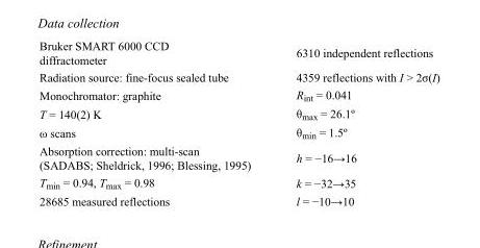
<table><tbody><tr><td>Bruker SMART 6000 CCD diffractometer</td><td>6310 independent reflections</td></tr><tr><td>Radiation source: fine-focus sealed tube</td><td>4359 reflections with I &gt; 2σ(I)</td></tr><tr><td>Monochromator: graphite</td><td>R<sub>int</sub> = 0.041</td></tr><tr><td>T = 140(2) K</td><td>θ<sub>max</sub> = 26.1º</td></tr><tr><td>ω scans</td><td>θ<sub>min</sub> = 1.5º</td></tr><tr><td>Absorption correction: multi-scan (SADABS; Sheldrick, 1996; Blessing, 1995)</td><td>h = −16→16</td></tr><tr><td>T<sub>min</sub> = 0.94, T<sub>max</sub> = 0.98</td><td>k = −32→35</td></tr><tr><td>28685 measured reflections</td><td>l = −10→10</td></tr></tbody></table>